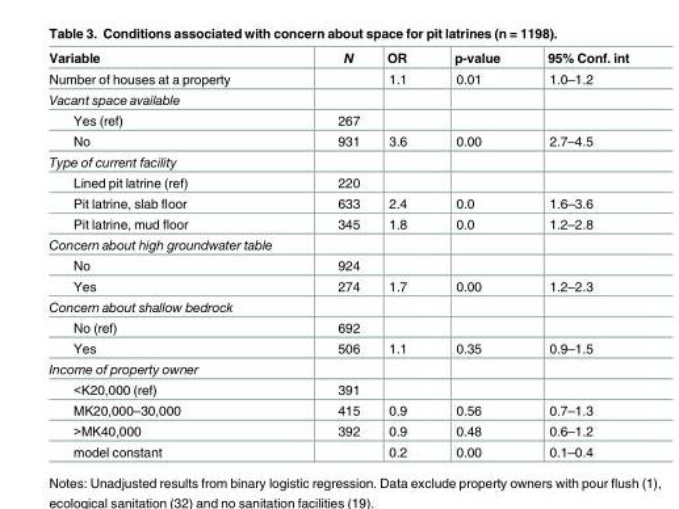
<table><thead><tr><td>Variable</td><td>N</td><td>OR</td><td>p-value</td><td>95% Conf. int</td></tr></thead><tbody><tr><td>Number of houses at a property</td><td></td><td>1.1</td><td>0.01</td><td>1.0–1.2</td></tr><tr><td colspan="5">Vacant space available</td></tr><tr><td>Yes (ref)</td><td>267</td><td></td><td></td><td></td></tr><tr><td>No</td><td>931</td><td>3.6</td><td>0.00</td><td>2.7–4.5</td></tr><tr><td colspan="5">Type of current facility</td></tr><tr><td>Lined pit latrine (ref)</td><td>220</td><td></td><td></td><td></td></tr><tr><td>Pit latrine, slab floor</td><td>633</td><td>2.4</td><td>0.0</td><td>1.6–3.6</td></tr><tr><td>Pit latrine, mud floor</td><td>345</td><td>1.8</td><td>0.0</td><td>1.2–2.8</td></tr><tr><td colspan="5">Concern about high groundwater table</td></tr><tr><td>No</td><td>924</td><td></td><td></td><td></td></tr><tr><td>Yes</td><td>274</td><td>1.7</td><td>0.00</td><td>1.2–2.3</td></tr><tr><td colspan="5">Concern about shallow bedrock</td></tr><tr><td>No (ref)</td><td>692</td><td></td><td></td><td></td></tr><tr><td>Yes</td><td>506</td><td>1.1</td><td>0.35</td><td>0.9–1.5</td></tr><tr><td colspan="5">Income of property owner</td></tr><tr><td>&lt;K20,000 (ref)</td><td>391</td><td></td><td></td><td></td></tr><tr><td>MK20,000–30,000</td><td>415</td><td>0.9</td><td>0.56</td><td>0.7–1.3</td></tr><tr><td>&gt;MK40,000</td><td>392</td><td>0.9</td><td>0.48</td><td>0.6–1.2</td></tr><tr><td>model constant</td><td></td><td>0.2</td><td>0.00</td><td>0.1–0.4</td></tr></tbody></table>